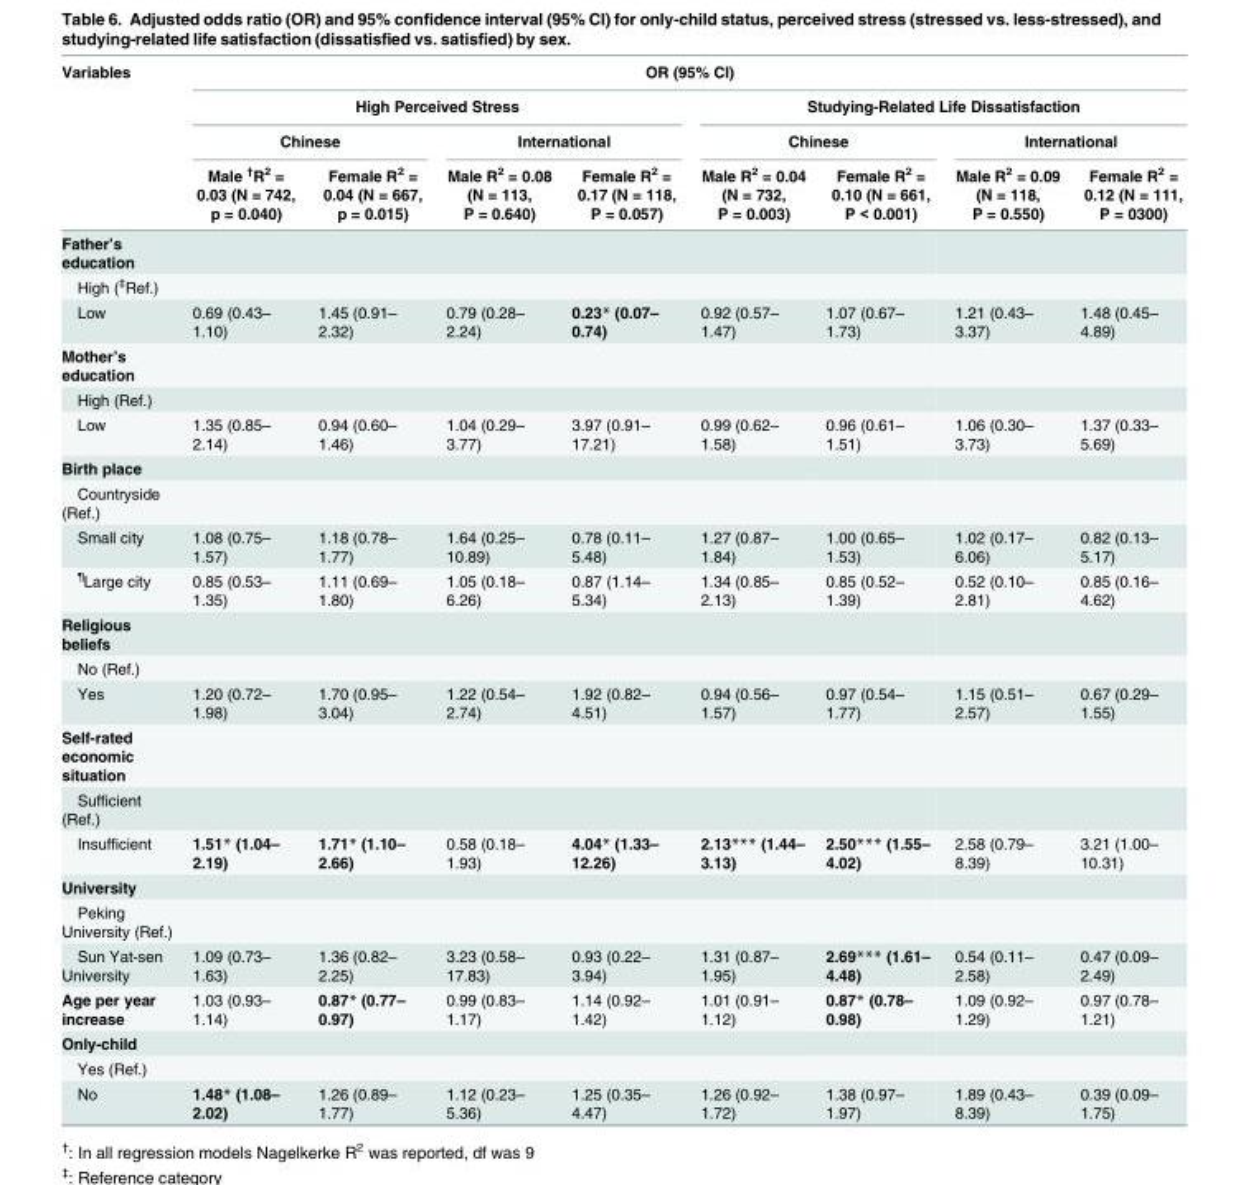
<table><thead><tr><td rowspan="4">Variables</td><td colspan="8">OR (95% CI)</td></tr><tr><td colspan="4">High Perceived Stress</td><td colspan="4">Studying-Related Life Dissatisfaction</td></tr><tr><td colspan="2">Chinese</td><td colspan="2">International</td><td colspan="2">Chinese</td><td colspan="2">International</td></tr><tr><td>Male <sup>†</sup>R<sup>2</sup> = 0.03 (N = 742, p = 0.040)</td><td>Female R<sup>2</sup> = 0.04 (N = 667, p = 0.015)</td><td>Male R<sup>2</sup> = 0.08 (N = 113, P = 0.640)</td><td>Female R<sup>2</sup> = 0.17 (N = 118, P = 0.057)</td><td>Male R<sup>2</sup> = 0.04 (N = 732, P = 0.003)</td><td>Female R<sup>2</sup> = 0.10 (N = 661, P &lt; 0.001)</td><td>Male R<sup>2</sup> = 0.09 (N = 118, P = 0.550)</td><td>Female R<sup>2</sup> = 0.12 (N = 111, P = 0300)</td></tr></thead><tbody><tr><td colspan="9">Father’s education</td></tr><tr><td colspan="9">High (<sup>‡</sup>Ref.)</td></tr><tr><td>Low</td><td>0.69 (0.43– 1.10)</td><td>1.45 (0.91– 2.32)</td><td>0.79 (0.28– 2.24)</td><td>0.23* (0.07– 0.74)</td><td>0.92 (0.57– 1.47)</td><td>1.07 (0.67– 1.73)</td><td>1.21 (0.43– 3.37)</td><td>1.48 (0.45– 4.89)</td></tr><tr><td colspan="9">Mother’s education</td></tr><tr><td colspan="9">High (Ref.)</td></tr><tr><td>Low</td><td>1.35 (0.85– 2.14)</td><td>0.94 (0.60– 1.46)</td><td>1.04 (0.29– 3.77)</td><td>3.97 (0.91– 17.21)</td><td>0.99 (0.62– 1.58)</td><td>0.96 (0.61– 1.51)</td><td>1.06 (0.30– 3.73)</td><td>1.37 (0.33– 5.69)</td></tr><tr><td colspan="9">Birth place</td></tr><tr><td colspan="9">Countryside (Ref.)</td></tr><tr><td>Small city</td><td>1.08 (0.75– 1.57)</td><td>1.18 (0.78– 1.77)</td><td>1.64 (0.25– 10.89)</td><td>0.78 (0.11– 5.48)</td><td>1.27 (0.87– 1.84)</td><td>1.00 (0.65– 1.53)</td><td>1.02 (0.17– 6.06)</td><td>0.82 (0.13– 5.17)</td></tr><tr><td><sup>¶</sup>Large city</td><td>0.85 (0.53– 1.35)</td><td>1.11 (0.69– 1.80)</td><td>1.05 (0.18– 6.26)</td><td>0.87 (1.14– 5.34)</td><td>1.34 (0.85– 2.13)</td><td>0.85 (0.52– 1.39)</td><td>0.52 (0.10– 2.81)</td><td>0.85 (0.16– 4.62)</td></tr><tr><td colspan="9">Religious beliefs</td></tr><tr><td colspan="9">No (Ref.)</td></tr><tr><td>Yes</td><td>1.20 (0.72– 1.98)</td><td>1.70 (0.95– 3.04)</td><td>1.22 (0.54– 2.74)</td><td>1.92 (0.82– 4.51)</td><td>0.94 (0.56– 1.57)</td><td>0.97 (0.54– 1.77)</td><td>1.15 (0.51– 2.57)</td><td>0.67 (0.29– 1.55)</td></tr><tr><td colspan="9">Self-rated economic situation</td></tr><tr><td colspan="9">Sufficient (Ref.)</td></tr><tr><td>Insufficient</td><td>1.51* (1.04– 2.19)</td><td>1.71* (1.10– 2.66)</td><td>0.58 (0.18– 1.93)</td><td>4.04* (1.33– 12.26)</td><td>2.13*** (1.44– 3.13)</td><td>2.50*** (1.55– 4.02)</td><td>2.58 (0.79– 8.39)</td><td>3.21 (1.00– 10.31)</td></tr><tr><td colspan="9">University</td></tr><tr><td colspan="9">Peking University (Ref.)</td></tr><tr><td>Sun Yat-sen University</td><td>1.09 (0.73– 1.63)</td><td>1.36 (0.82– 2.25)</td><td>3.23 (0.58– 17.83)</td><td>0.93 (0.22– 3.94)</td><td>1.31 (0.87– 1.95)</td><td>2.69*** (1.61– 4.48)</td><td>0.54 (0.11– 2.58)</td><td>0.47 (0.09– 2.49)</td></tr><tr><td>Age per year increase</td><td>1.03 (0.93– 1.14)</td><td>0.87* (0.77– 0.97)</td><td>0.99 (0.83– 1.17)</td><td>1.14 (0.92– 1.42)</td><td>1.01 (0.91– 1.12)</td><td>0.87* (0.78– 0.98)</td><td>1.09 (0.92– 1.29)</td><td>0.97 (0.78– 1.21)</td></tr><tr><td colspan="9">Only-child</td></tr><tr><td colspan="9">Yes (Ref.)</td></tr><tr><td>No</td><td>1.48* (1.08– 2.02)</td><td>1.26 (0.89– 1.77)</td><td>1.12 (0.23– 5.36)</td><td>1.25 (0.35– 4.47)</td><td>1.26 (0.92– 1.72)</td><td>1.38 (0.97– 1.97)</td><td>1.89 (0.43– 8.39)</td><td>0.39 (0.09– 1.75)</td></tr></tbody></table>